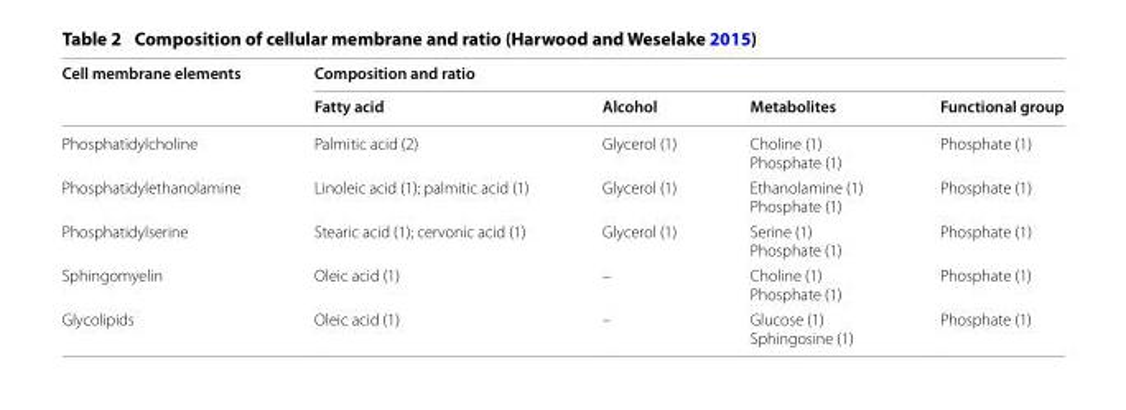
<table><thead><tr><td rowspan="2">Cell membrane elements</td><td colspan="4">Composition and ratio</td></tr><tr><td>Fatty acid</td><td>Alcohol</td><td>Metabolites</td><td>Functional group</td></tr></thead><tbody><tr><td>Phosphatidylcholine</td><td>Palmitic acid (2)</td><td>Glycerol (1)</td><td>Choline (1) Phosphate (1)</td><td>Phosphate (1)</td></tr><tr><td>Phosphatidylethanolamine</td><td>Linoleic acid (1); palmitic acid (1)</td><td>Glycerol (1)</td><td>Ethanolamine (1) Phosphate (1)</td><td>Phosphate (1)</td></tr><tr><td>Phosphatidylserine</td><td>Stearic acid (1); cervonic acid (1)</td><td>Glycerol (1)</td><td>Serine (1) Phosphate (1)</td><td>Phosphate (1)</td></tr><tr><td>Sphingomyelin</td><td>Oleic acid (1)</td><td>–</td><td>Choline (1) Phosphate (1)</td><td>Phosphate (1)</td></tr><tr><td>Glycolipids</td><td>Oleic acid (1)</td><td>–</td><td>Glucose (1) Sphingosine (1)</td><td>Phosphate (1)</td></tr></tbody></table>